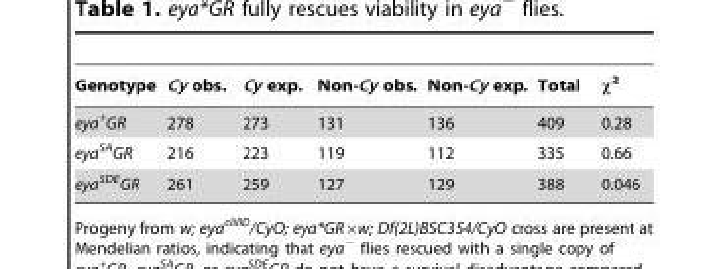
<table><thead><tr><td>Genotype</td><td>Cy obs.</td><td>Cy exp.</td><td>Non-Cy obs.</td><td>Non-Cy exp.</td><td>Total</td><td>x2</td></tr></thead><tbody><tr><td>eya<sup>+</sup>GR</td><td>278</td><td>273</td><td>131</td><td>136</td><td>409</td><td>0.28</td></tr><tr><td>eya<sup>SA</sup>GR</td><td>216</td><td>223</td><td>119</td><td>112</td><td>335</td><td>0.66</td></tr><tr><td>eya<sup>SDE</sup>GR</td><td>261</td><td>259</td><td>127</td><td>129</td><td>388</td><td>0.046</td></tr></tbody></table>